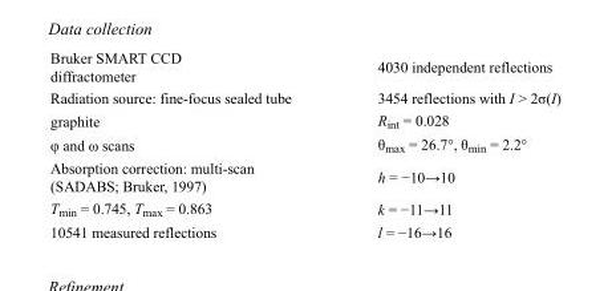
<table><tbody><tr><td>Bruker SMART CCD diffractometer</td><td>4030 independent reflections</td></tr><tr><td>Radiation source: fine-focus sealed tube</td><td>3454 reflections with I &gt; 2σ(I)</td></tr><tr><td>graphite</td><td>R<sub>int</sub> = 0.028</td></tr><tr><td>φ and ω scans</td><td>θ<sub>max</sub> = 26.7°, θ<sub>min</sub> = 2.2°</td></tr><tr><td>Absorption correction: multi-scan (SADABS; Bruker, 1997)</td><td>h = −10→10</td></tr><tr><td>T<sub>min</sub> = 0.745, T<sub>max</sub> = 0.863</td><td>k = −11→11</td></tr><tr><td>10541 measured reflections</td><td>l = −16→16</td></tr></tbody></table>